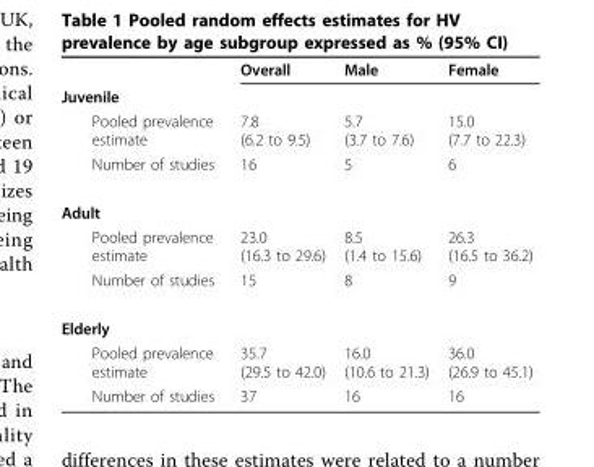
<table><thead><tr><td></td><td>Overall</td><td>Male</td><td>Female</td></tr></thead><tbody><tr><td colspan="4">Juvenile</td></tr><tr><td>Pooled prevalence estimate</td><td>7.8 (6.2 to 9.5)</td><td>5.7 (3.7 to 7.6)</td><td>15.0 (7.7 to 22.3)</td></tr><tr><td>Number of studies</td><td>16</td><td>5</td><td>6</td></tr><tr><td colspan="4">Adult</td></tr><tr><td>Pooled prevalence estimate</td><td>23.0 (16.3 to 29.6)</td><td>8.5 (1.4 to 15.6)</td><td>26.3 (16.5 to 36.2)</td></tr><tr><td>Number of studies</td><td>15</td><td>8</td><td>9</td></tr><tr><td colspan="4">Elderly</td></tr><tr><td>Pooled prevalence estimate</td><td>35.7 (29.5 to 42.0)</td><td>16.0 (10.6 to 21.3)</td><td>36.0 (26.9 to 45.1)</td></tr><tr><td>Number of studies</td><td>37</td><td>16</td><td>16</td></tr></tbody></table>